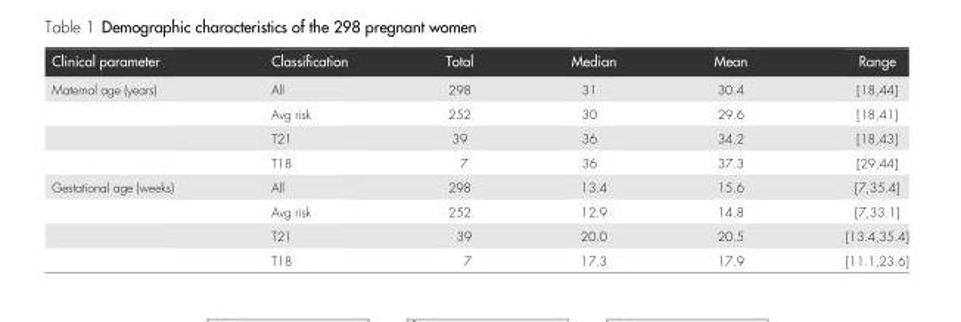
<table><thead><tr><td>Clinical parameter</td><td>Classification</td><td>Total</td><td>Median</td><td>Mean</td><td>Range</td></tr></thead><tbody><tr><td rowspan="4">Maternal age (years)</td><td>All</td><td>298</td><td>31</td><td>30.4</td><td>[18,44]</td></tr><tr><td>Avg risk</td><td>252</td><td>30</td><td>29.6</td><td>[18,41]</td></tr><tr><td>T21</td><td>39</td><td>36</td><td>34.2</td><td>[18,43]</td></tr><tr><td>T18</td><td>7</td><td>36</td><td>37.3</td><td>[29,44]</td></tr><tr><td rowspan="4">Gestational age (weeks)</td><td>All</td><td>298</td><td>13.4</td><td>15.6</td><td>[7,35.4]</td></tr><tr><td>Avg risk</td><td>252</td><td>12.9</td><td>14.8</td><td>[7,33.1]</td></tr><tr><td>T21</td><td>39</td><td>20.0</td><td>20.5</td><td>[13.4,35.4]</td></tr><tr><td>T18</td><td>7</td><td>17.3</td><td>17.9</td><td>[11.1,23.6]</td></tr></tbody></table>